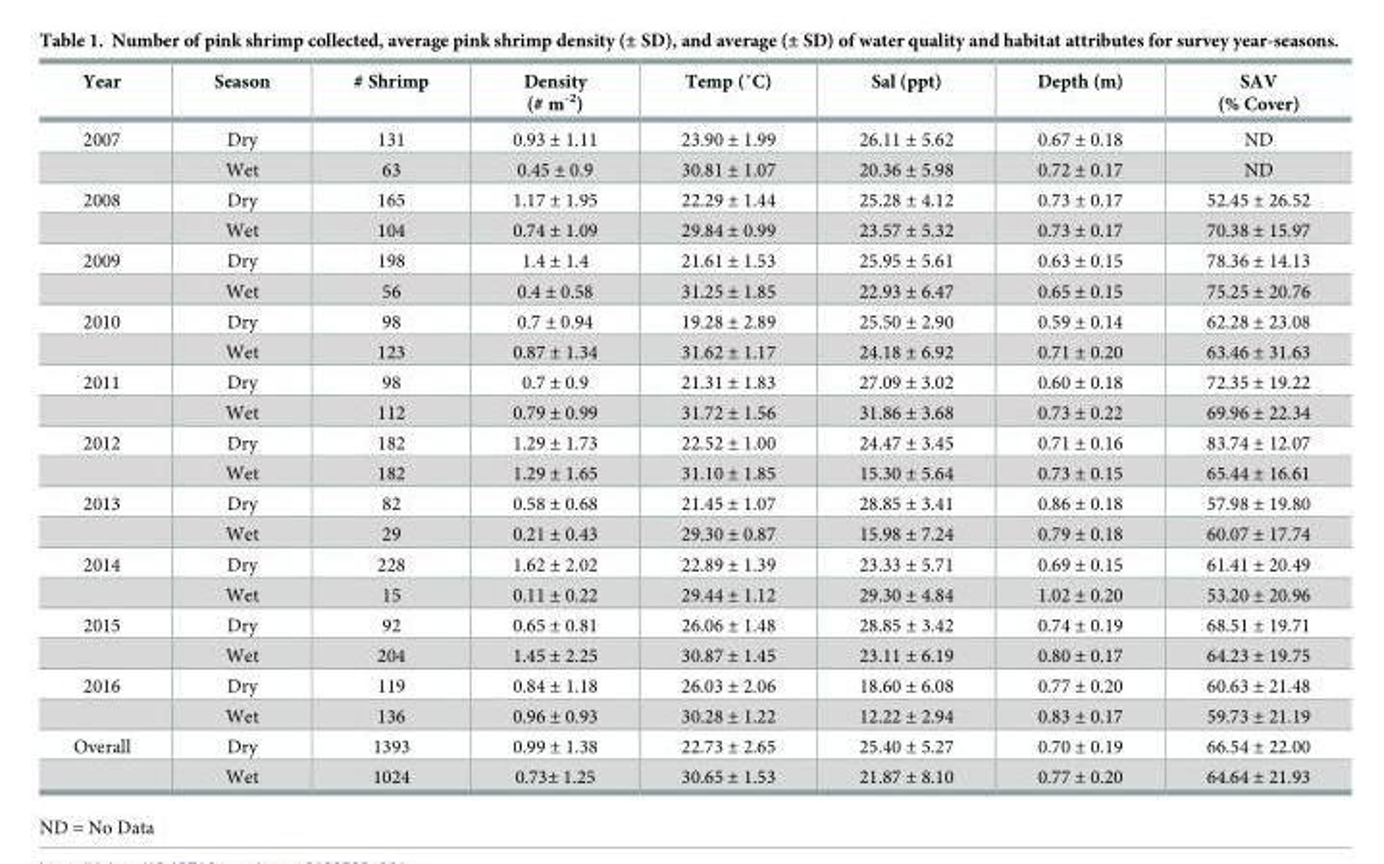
<table><thead><tr><td>Year</td><td>Season</td><td># Shrimp</td><td>Density (# m<sup>-2</sup>)</td><td>Temp (˚C)</td><td>Sal (ppt)</td><td>Depth (m)</td><td>SAV (% Cover)</td></tr></thead><tbody><tr><td rowspan="2">2007</td><td>Dry</td><td>131</td><td>0.93 ± 1.11</td><td>23.90 ± 1.99</td><td>26.11 ± 5.62</td><td>0.67 ± 0.18</td><td>ND</td></tr><tr><td>Wet</td><td>63</td><td>0.45 ± 0.9</td><td>30.81 ± 1.07</td><td>20.36 ± 5.98</td><td>0.72 ± 0.17</td><td>ND</td></tr><tr><td rowspan="2">2008</td><td>Dry</td><td>165</td><td>1.17 ± 1.95</td><td>22.29 ± 1.44</td><td>25.28 ± 4.12</td><td>0.73 ± 0.17</td><td>52.45 ± 26.52</td></tr><tr><td>Wet</td><td>104</td><td>0.74 ± 1.09</td><td>29.84 ± 0.99</td><td>23.57 ± 5.32</td><td>0.73 ± 0.17</td><td>70.38 ± 15.97</td></tr><tr><td rowspan="2">2009</td><td>Dry</td><td>198</td><td>1.4 ± 1.4</td><td>21.61 ± 1.53</td><td>25.95 ± 5.61</td><td>0.63 ± 0.15</td><td>78.36 ± 14.13</td></tr><tr><td>Wet</td><td>56</td><td>0.4 ± 0.58</td><td>31.25 ± 1.85</td><td>22.93 ± 6.47</td><td>0.65 ± 0.15</td><td>75.25 ± 20.76</td></tr><tr><td rowspan="2">2010</td><td>Dry</td><td>98</td><td>0.7 ± 0.94</td><td>19.28 ± 2.89</td><td>25.50 ± 2.90</td><td>0.59 ± 0.14</td><td>62.28 ± 23.08</td></tr><tr><td>Wet</td><td>123</td><td>0.87 ± 1.34</td><td>31.62 ± 1.17</td><td>24.18 ± 6.92</td><td>0.71 ± 0.20</td><td>63.46 ± 31.63</td></tr><tr><td rowspan="2">2011</td><td>Dry</td><td>98</td><td>0.7 ± 0.9</td><td>21.31 ± 1.83</td><td>27.09 ± 3.02</td><td>0.60 ± 0.18</td><td>72.35 ± 19.22</td></tr><tr><td>Wet</td><td>112</td><td>0.79 ± 0.99</td><td>31.72 ± 1.56</td><td>31.86 ± 3.68</td><td>0.73 ± 0.22</td><td>69.96 ± 22.34</td></tr><tr><td rowspan="2">2012</td><td>Dry</td><td>182</td><td>1.29 ± 1.73</td><td>22.52 ± 1.00</td><td>24.47 ± 3.45</td><td>0.71 ± 0.16</td><td>83.74 ± 12.07</td></tr><tr><td>Wet</td><td>182</td><td>1.29 ± 1.65</td><td>31.10 ± 1.85</td><td>15.30 ± 5.64</td><td>0.73 ± 0.15</td><td>65.44 ± 16.61</td></tr><tr><td rowspan="2">2013</td><td>Dry</td><td>82</td><td>0.58 ± 0.68</td><td>21.45 ± 1.07</td><td>28.85 ± 3.41</td><td>0.86 ± 0.18</td><td>57.98 ± 19.80</td></tr><tr><td>Wet</td><td>29</td><td>0.21 ± 0.43</td><td>29.30 ± 0.87</td><td>15.98 ± 7.24</td><td>0.79 ± 0.18</td><td>60.07 ± 17.74</td></tr><tr><td rowspan="2">2014</td><td>Dry</td><td>228</td><td>1.62 ± 2.02</td><td>22.89 ± 1.39</td><td>23.33 ± 5.71</td><td>0.69 ± 0.15</td><td>61.41 ± 20.49</td></tr><tr><td>Wet</td><td>15</td><td>0.11 ± 0.22</td><td>29.44 ± 1.12</td><td>29.30 ± 4.84</td><td>1.02 ± 0.20</td><td>53.20 ± 20.96</td></tr><tr><td rowspan="2">2015</td><td>Dry</td><td>92</td><td>0.65 ± 0.81</td><td>26.06 ± 1.48</td><td>28.85 ± 3.42</td><td>0.74 ± 0.19</td><td>68.51 ± 19.71</td></tr><tr><td>Wet</td><td>204</td><td>1.45 ± 2.25</td><td>30.87 ± 1.45</td><td>23.11 ± 6.19</td><td>0.80 ± 0.17</td><td>64.23 ± 19.75</td></tr><tr><td rowspan="2">2016</td><td>Dry</td><td>119</td><td>0.84 ± 1.18</td><td>26.03 ± 2.06</td><td>18.60 ± 6.08</td><td>0.77 ± 0.20</td><td>60.63 ± 21.48</td></tr><tr><td>Wet</td><td>136</td><td>0.96 ± 0.93</td><td>30.28 ± 1.22</td><td>12.22 ± 2.94</td><td>0.83 ± 0.17</td><td>59.73 ± 21.19</td></tr><tr><td rowspan="2">Overall</td><td>Dry</td><td>1393</td><td>0.99 ± 1.38</td><td>22.73 ± 2.65</td><td>25.40 ± 5.27</td><td>0.70 ± 0.19</td><td>66.54 ± 22.00</td></tr><tr><td>Wet</td><td>1024</td><td>0.73± 1.25</td><td>30.65 ± 1.53</td><td>21.87 ± 8.10</td><td>0.77 ± 0.20</td><td>64.64 ± 21.93</td></tr></tbody></table>